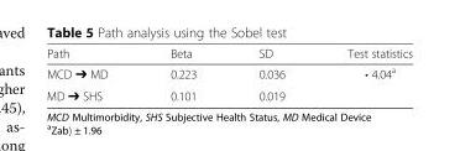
<table><thead><tr><td>Path</td><td>Beta</td><td>SD</td><td>Test statistics</td></tr></thead><tbody><tr><td>MCD ➔ MD</td><td>0.223</td><td>0.036</td><td rowspan="2">• 4.04<sup>a</sup></td></tr><tr><td>MD ➔ SHS</td><td>0.101</td><td>0.019</td></tr></tbody></table>